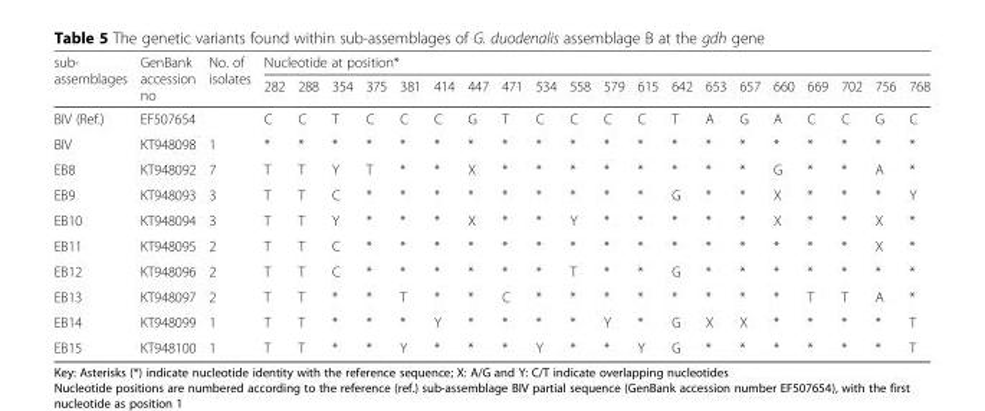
<table><thead><tr><td rowspan="2">sub- assemblages</td><td rowspan="2">GenBank accession no</td><td rowspan="2">No. of isolates</td><td colspan="20">Nucleotide at position*</td></tr><tr><td>282</td><td>288</td><td>354</td><td>375</td><td>381</td><td>414</td><td>447</td><td>471</td><td>534</td><td>558</td><td>579</td><td>615</td><td>642</td><td>653</td><td>657</td><td>660</td><td>669</td><td>702</td><td>756</td><td>768</td></tr></thead><tbody><tr><td>BIV (Ref.)</td><td>EF507654</td><td></td><td>C</td><td>C</td><td>T</td><td>C</td><td>C</td><td>C</td><td>G</td><td>T</td><td>C</td><td>C</td><td>C</td><td>C</td><td>T</td><td>A</td><td>G</td><td>A</td><td>C</td><td>C</td><td>G</td><td>C</td></tr><tr><td>BIV</td><td>KT948098</td><td>1</td><td>*</td><td>*</td><td>*</td><td>*</td><td>*</td><td>*</td><td>*</td><td>*</td><td>*</td><td>*</td><td>*</td><td>*</td><td>*</td><td>*</td><td>*</td><td>*</td><td>*</td><td>*</td><td>*</td><td>*</td></tr><tr><td>EB8</td><td>KT948092</td><td>7</td><td>T</td><td>T</td><td>Y</td><td>T</td><td>*</td><td>*</td><td>X</td><td>*</td><td>*</td><td>*</td><td>*</td><td>*</td><td>*</td><td>*</td><td>*</td><td>G</td><td>*</td><td>*</td><td>A</td><td>*</td></tr><tr><td>EB9</td><td>KT948093</td><td>3</td><td>T</td><td>T</td><td>C</td><td>*</td><td>*</td><td>*</td><td>*</td><td>*</td><td>*</td><td>*</td><td>*</td><td>*</td><td>G</td><td>*</td><td>*</td><td>X</td><td>*</td><td>*</td><td>*</td><td>Y</td></tr><tr><td>EB10</td><td>KT948094</td><td>3</td><td>T</td><td>T</td><td>Y</td><td>*</td><td>*</td><td>*</td><td>X</td><td>*</td><td>*</td><td>Y</td><td>*</td><td>*</td><td>*</td><td>*</td><td>*</td><td>X</td><td>*</td><td>*</td><td>X</td><td>*</td></tr><tr><td>EB11</td><td>KT948095</td><td>2</td><td>T</td><td>T</td><td>C</td><td>*</td><td>*</td><td>*</td><td>*</td><td>*</td><td>*</td><td>*</td><td>*</td><td>*</td><td>*</td><td>*</td><td>*</td><td>*</td><td>*</td><td>*</td><td>X</td><td>*</td></tr><tr><td>EB12</td><td>KT948096</td><td>2</td><td>T</td><td>T</td><td>C</td><td>*</td><td>*</td><td>*</td><td>*</td><td>*</td><td>*</td><td>T</td><td>*</td><td>*</td><td>G</td><td>*</td><td>*</td><td>*</td><td>*</td><td>*</td><td>*</td><td>*</td></tr><tr><td>EB13</td><td>KT948097</td><td>2</td><td>T</td><td>T</td><td>*</td><td>*</td><td>T</td><td>*</td><td>*</td><td>C</td><td>*</td><td>*</td><td>*</td><td>*</td><td>*</td><td>*</td><td>*</td><td>*</td><td>T</td><td>T</td><td>A</td><td>*</td></tr><tr><td>EB14</td><td>KT948099</td><td>1</td><td>T</td><td>T</td><td>*</td><td>*</td><td>*</td><td>Y</td><td>*</td><td>*</td><td>*</td><td>*</td><td>Y</td><td>*</td><td>G</td><td>X</td><td>X</td><td>*</td><td>*</td><td>*</td><td>*</td><td>T</td></tr><tr><td>EB15</td><td>KT948100</td><td>1</td><td>T</td><td>T</td><td>*</td><td>*</td><td>Y</td><td>*</td><td>*</td><td>*</td><td>Y</td><td>*</td><td>*</td><td>Y</td><td>G</td><td>*</td><td>*</td><td>*</td><td>*</td><td>*</td><td>*</td><td>T</td></tr></tbody></table>